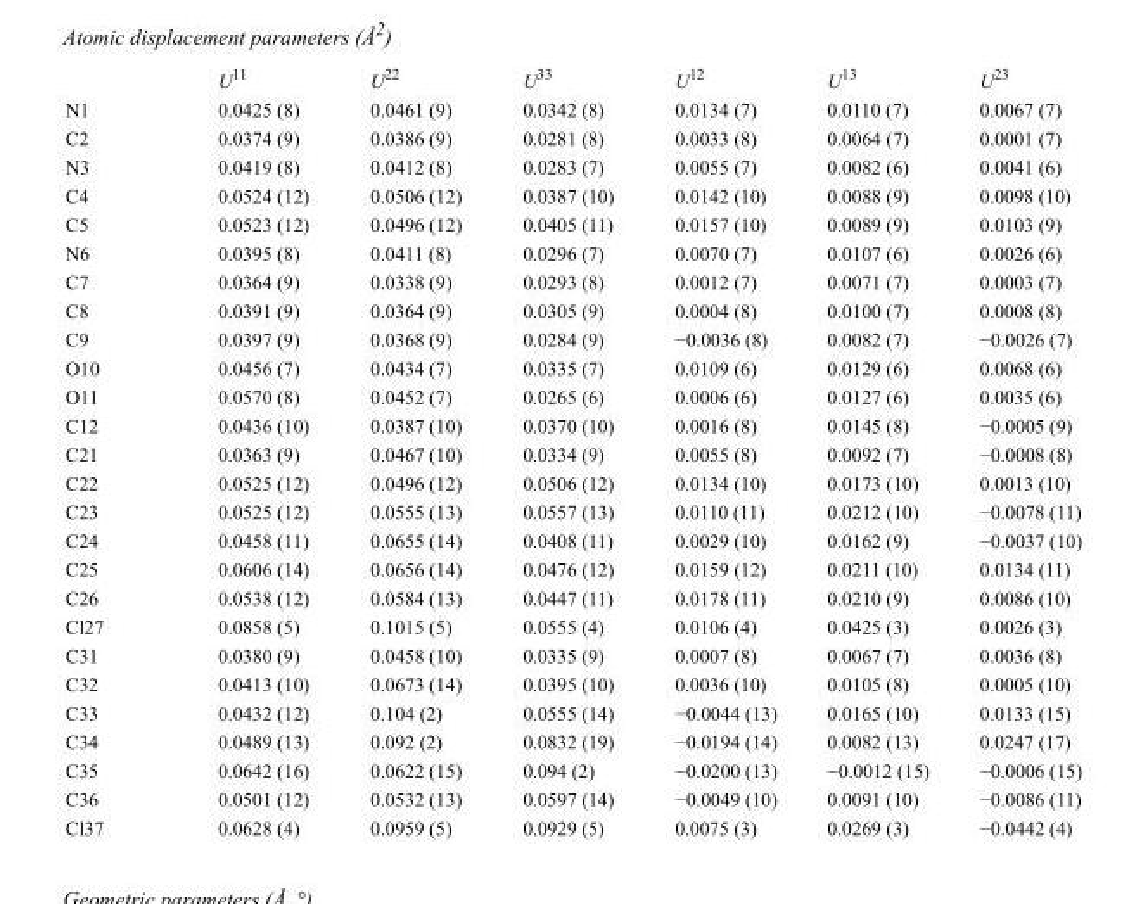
<table><thead><tr><td></td><td>U<sup>11</sup></td><td>U<sup>22</sup></td><td>U<sup>33</sup></td><td>U<sup>12</sup></td><td>U<sup>13</sup></td><td>U<sup>23</sup></td></tr></thead><tbody><tr><td>N1</td><td>0.0425 (8)</td><td>0.0461 (9)</td><td>0.0342 (8)</td><td>0.0134 (7)</td><td>0.0110 (7)</td><td>0.0067 (7)</td></tr><tr><td>C2</td><td>0.0374 (9)</td><td>0.0386 (9)</td><td>0.0281 (8)</td><td>0.0033 (8)</td><td>0.0064 (7)</td><td>0.0001 (7)</td></tr><tr><td>N3</td><td>0.0419 (8)</td><td>0.0412 (8)</td><td>0.0283 (7)</td><td>0.0055 (7)</td><td>0.0082 (6)</td><td>0.0041 (6)</td></tr><tr><td>C4</td><td>0.0524 (12)</td><td>0.0506 (12)</td><td>0.0387 (10)</td><td>0.0142 (10)</td><td>0.0088 (9)</td><td>0.0098 (10)</td></tr><tr><td>C5</td><td>0.0523 (12)</td><td>0.0496 (12)</td><td>0.0405 (11)</td><td>0.0157 (10)</td><td>0.0089 (9)</td><td>0.0103 (9)</td></tr><tr><td>N6</td><td>0.0395 (8)</td><td>0.0411 (8)</td><td>0.0296 (7)</td><td>0.0070 (7)</td><td>0.0107 (6)</td><td>0.0026 (6)</td></tr><tr><td>C7</td><td>0.0364 (9)</td><td>0.0338 (9)</td><td>0.0293 (8)</td><td>0.0012 (7)</td><td>0.0071 (7)</td><td>0.0003 (7)</td></tr><tr><td>C8</td><td>0.0391 (9)</td><td>0.0364 (9)</td><td>0.0305 (9)</td><td>0.0004 (8)</td><td>0.0100 (7)</td><td>0.0008 (8)</td></tr><tr><td>C9</td><td>0.0397 (9)</td><td>0.0368 (9)</td><td>0.0284 (9)</td><td>−0.0036 (8)</td><td>0.0082 (7)</td><td>−0.0026 (7)</td></tr><tr><td>O10</td><td>0.0456 (7)</td><td>0.0434 (7)</td><td>0.0335 (7)</td><td>0.0109 (6)</td><td>0.0129 (6)</td><td>0.0068 (6)</td></tr><tr><td>O11</td><td>0.0570 (8)</td><td>0.0452 (7)</td><td>0.0265 (6)</td><td>0.0006 (6)</td><td>0.0127 (6)</td><td>0.0035 (6)</td></tr><tr><td>C12</td><td>0.0436 (10)</td><td>0.0387 (10)</td><td>0.0370 (10)</td><td>0.0016 (8)</td><td>0.0145 (8)</td><td>−0.0005 (9)</td></tr><tr><td>C21</td><td>0.0363 (9)</td><td>0.0467 (10)</td><td>0.0334 (9)</td><td>0.0055 (8)</td><td>0.0092 (7)</td><td>−0.0008 (8)</td></tr><tr><td>C22</td><td>0.0525 (12)</td><td>0.0496 (12)</td><td>0.0506 (12)</td><td>0.0134 (10)</td><td>0.0173 (10)</td><td>0.0013 (10)</td></tr><tr><td>C23</td><td>0.0525 (12)</td><td>0.0555 (13)</td><td>0.0557 (13)</td><td>0.0110 (11)</td><td>0.0212 (10)</td><td>−0.0078 (11)</td></tr><tr><td>C24</td><td>0.0458 (11)</td><td>0.0655 (14)</td><td>0.0408 (11)</td><td>0.0029 (10)</td><td>0.0162 (9)</td><td>−0.0037 (10)</td></tr><tr><td>C25</td><td>0.0606 (14)</td><td>0.0656 (14)</td><td>0.0476 (12)</td><td>0.0159 (12)</td><td>0.0211 (10)</td><td>0.0134 (11)</td></tr><tr><td>C26</td><td>0.0538 (12)</td><td>0.0584 (13)</td><td>0.0447 (11)</td><td>0.0178 (11)</td><td>0.0210 (9)</td><td>0.0086 (10)</td></tr><tr><td>Cl27</td><td>0.0858 (5)</td><td>0.1015 (5)</td><td>0.0555 (4)</td><td>0.0106 (4)</td><td>0.0425 (3)</td><td>0.0026 (3)</td></tr><tr><td>C31</td><td>0.0380 (9)</td><td>0.0458 (10)</td><td>0.0335 (9)</td><td>0.0007 (8)</td><td>0.0067 (7)</td><td>0.0036 (8)</td></tr><tr><td>C32</td><td>0.0413 (10)</td><td>0.0673 (14)</td><td>0.0395 (10)</td><td>0.0036 (10)</td><td>0.0105 (8)</td><td>0.0005 (10)</td></tr><tr><td>C33</td><td>0.0432 (12)</td><td>0.104 (2)</td><td>0.0555 (14)</td><td>−0.0044 (13)</td><td>0.0165 (10)</td><td>0.0133 (15)</td></tr><tr><td>C34</td><td>0.0489 (13)</td><td>0.092 (2)</td><td>0.0832 (19)</td><td>−0.0194 (14)</td><td>0.0082 (13)</td><td>0.0247 (17)</td></tr><tr><td>C35</td><td>0.0642 (16)</td><td>0.0622 (15)</td><td>0.094 (2)</td><td>−0.0200 (13)</td><td>−0.0012 (15)</td><td>−0.0006 (15)</td></tr><tr><td>C36</td><td>0.0501 (12)</td><td>0.0532 (13)</td><td>0.0597 (14)</td><td>−0.0049 (10)</td><td>0.0091 (10)</td><td>−0.0086 (11)</td></tr><tr><td>Cl37</td><td>0.0628 (4)</td><td>0.0959 (5)</td><td>0.0929 (5)</td><td>0.0075 (3)</td><td>0.0269 (3)</td><td>−0.0442 (4)</td></tr></tbody></table>